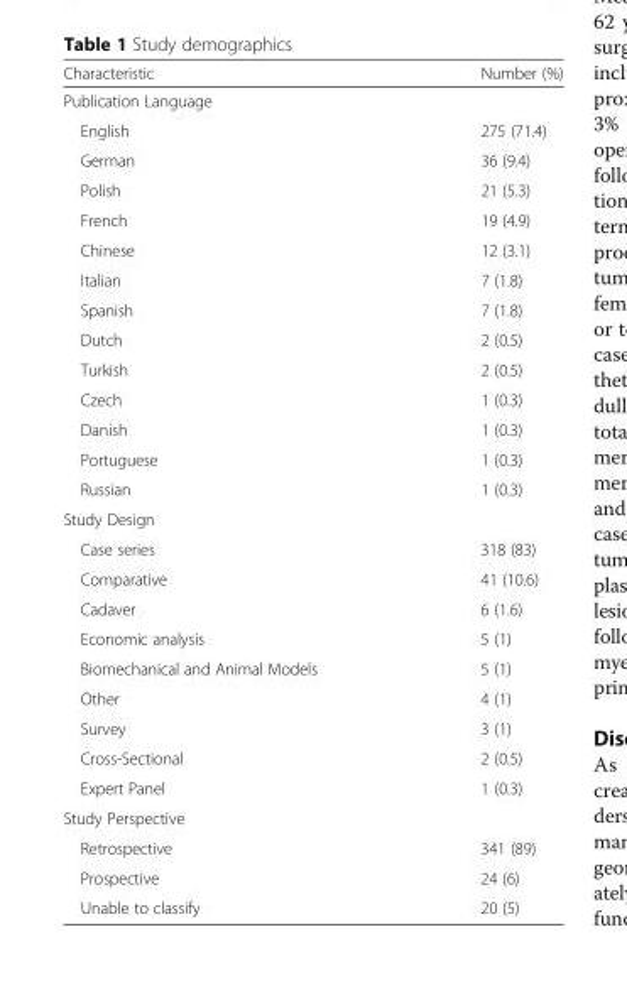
<table><thead><tr><td>Characteristic</td><td>Number (%)</td></tr></thead><tbody><tr><td colspan="2">Publication Language</td></tr><tr><td>English</td><td>275 (71.4)</td></tr><tr><td>German</td><td>36 (9.4)</td></tr><tr><td>Polish</td><td>21 (5.3)</td></tr><tr><td>French</td><td>19 (4.9)</td></tr><tr><td>Chinese</td><td>12 (3.1)</td></tr><tr><td>Italian</td><td>7 (1.8)</td></tr><tr><td>Spanish</td><td>7 (1.8)</td></tr><tr><td>Dutch</td><td>2 (0.5)</td></tr><tr><td>Turkish</td><td>2 (0.5)</td></tr><tr><td>Czech</td><td>1 (0.3)</td></tr><tr><td>Danish</td><td>1 (0.3)</td></tr><tr><td>Portuguese</td><td>1 (0.3)</td></tr><tr><td>Russian</td><td>1 (0.3)</td></tr><tr><td colspan="2">Study Design</td></tr><tr><td>Case series</td><td>318 (83)</td></tr><tr><td>Comparative</td><td>41 (10.6)</td></tr><tr><td>Cadaver</td><td>6 (1.6)</td></tr><tr><td>Economic analysis</td><td>5 (1)</td></tr><tr><td>Biomechanical and Animal Models</td><td>5 (1)</td></tr><tr><td>Other</td><td>4 (1)</td></tr><tr><td>Survey</td><td>3 (1)</td></tr><tr><td>Cross-Sectional</td><td>2 (0.5)</td></tr><tr><td>Expert Panel</td><td>1 (0.3)</td></tr><tr><td colspan="2">Study Perspective</td></tr><tr><td>Retrospective</td><td>341 (89)</td></tr><tr><td>Prospective</td><td>24 (6)</td></tr><tr><td>Unable to classify</td><td>20 (5)</td></tr></tbody></table>